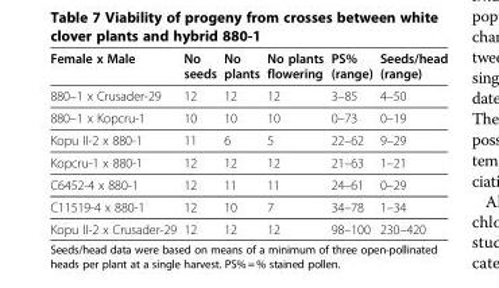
<table><thead><tr><td>Female x Male</td><td>No seeds</td><td>No plants</td><td>No plants flowering</td><td>PS% (range)</td><td>Seeds/head (range)</td></tr></thead><tbody><tr><td>880–1 x Crusader-29</td><td>12</td><td>12</td><td>12</td><td>3–85</td><td>4–50</td></tr><tr><td>880–1 x Kopcru-1</td><td>10</td><td>10</td><td>10</td><td>0–73</td><td>0–19</td></tr><tr><td>Kopu II-2 x 880-1</td><td>11</td><td>6</td><td>5</td><td>22–62</td><td>9–29</td></tr><tr><td>Kopcru-1 x 880-1</td><td>12</td><td>12</td><td>12</td><td>21–63</td><td>1–21</td></tr><tr><td>C6452-4 x 880-1</td><td>12</td><td>11</td><td>11</td><td>24–61</td><td>0–29</td></tr><tr><td>C11519-4 x 880-1</td><td>12</td><td>10</td><td>7</td><td>34–78</td><td>1–34</td></tr><tr><td>Kopu II-2 x Crusader-29</td><td>12</td><td>12</td><td>12</td><td>98–100</td><td>230–420</td></tr></tbody></table>